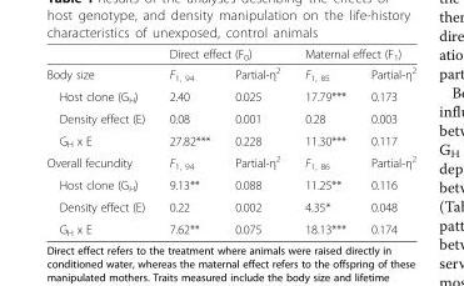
<table><thead><tr><td rowspan="2">Body size</td><td colspan="2">Direct effect (F<sub>0</sub>)</td><td colspan="2">Maternal effect (F<sub>1</sub>)</td></tr><tr><td>F<sub>1, 94</sub></td><td>Partial-η<sup>2</sup></td><td>F<sub>1, 85</sub></td><td>Partial-η<sup>2</sup></td></tr></thead><tbody><tr><td>Host clone (G<sub>H</sub>)</td><td>2.40</td><td>0.025</td><td>17.79***</td><td>0.173</td></tr><tr><td>Density effect (E)</td><td>0.08</td><td>0.001</td><td>0.28</td><td>0.003</td></tr><tr><td>G<sub>H</sub> x E</td><td>27.82***</td><td>0.228</td><td>11.30***</td><td>0.117</td></tr><tr><td>Overall fecundity</td><td>F<sub>1, 94</sub></td><td>Partial-η<sup>2</sup></td><td>F<sub>1, 86</sub></td><td>Partial-η<sup>2</sup></td></tr><tr><td>Host clone (G<sub>H</sub>)</td><td>9.13**</td><td>0.088</td><td>11.25**</td><td>0.116</td></tr><tr><td>Density effect (E)</td><td>0.22</td><td>0.002</td><td>4.35*</td><td>0.048</td></tr><tr><td>G<sub>H</sub> x E</td><td>7.62**</td><td>0.075</td><td>18.13***</td><td>0.174</td></tr></tbody></table>